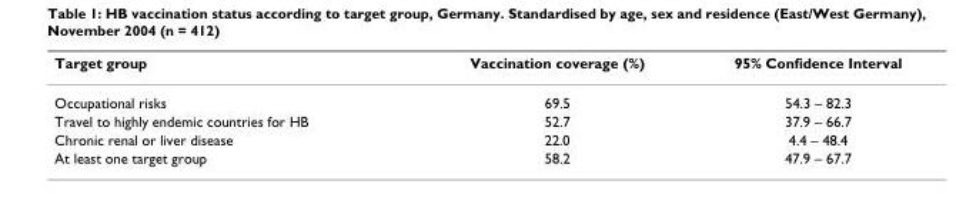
<table><thead><tr><td>Target group</td><td>Vaccination coverage (%)</td><td>95% Confidence Interval</td></tr></thead><tbody><tr><td>Occupational risks</td><td>69.5</td><td>54.3 – 82.3</td></tr><tr><td>Travel to highly endemic countries for HB</td><td>52.7</td><td>37.9 – 66.7</td></tr><tr><td>Chronic renal or liver disease</td><td>22.0</td><td>4.4 – 48.4</td></tr><tr><td>At least one target group</td><td>58.2</td><td>47.9 – 67.7</td></tr></tbody></table>